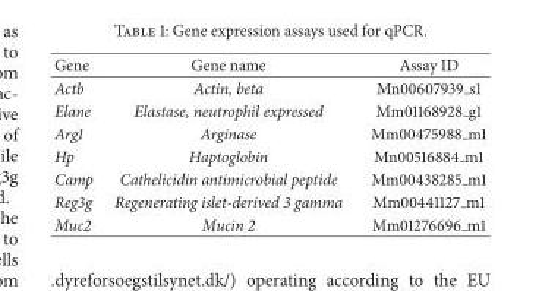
<table><thead><tr><td>Gene</td><td>Gene name</td><td>Assay ID</td></tr></thead><tbody><tr><td>Actb</td><td>Actin, beta</td><td>Mn00607939 s1</td></tr><tr><td>Elane</td><td>Elastase, neutrophil expressed</td><td>Mm01168928 g1</td></tr><tr><td>Arg1</td><td>Arginase</td><td>Mm00475988 m1</td></tr><tr><td>Hp</td><td>Haptoglobin</td><td>Mn00516884 m1</td></tr><tr><td>Camp</td><td>Cathelicidin antimicrobial peptide</td><td>Mm00438285 m1</td></tr><tr><td>Reg3g</td><td>Regenerating islet-derived 3 gamma</td><td>Mm00441127 m1</td></tr><tr><td>Muc2</td><td>Mucin 2</td><td>Mm01276696 m1</td></tr></tbody></table>